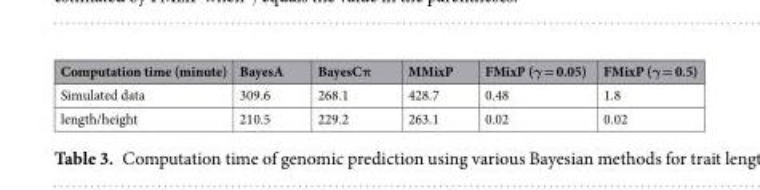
<table><thead><tr><td>Computation time (minute)</td><td>BayesA</td><td>BayesCπ</td><td>MMixP</td><td>FMixP (γ = 0.05)</td><td>FMixP (γ = 0.5)</td></tr></thead><tbody><tr><td>Simulated data</td><td>309.6</td><td>268.1</td><td>428.7</td><td>0.48</td><td>1.8</td></tr><tr><td>length/height</td><td>210.5</td><td>229.2</td><td>263.1</td><td>0.02</td><td>0.02</td></tr></tbody></table>